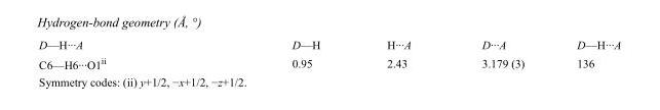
<table><tbody><tr><td>D—H···A</td><td>D—H</td><td>H···A</td><td>D···A</td><td>D—H···A</td></tr><tr><td>C6—H6···O1<sup>ii</sup></td><td>0.95</td><td>2.43</td><td>3.179 (3)</td><td>136</td></tr></tbody></table>